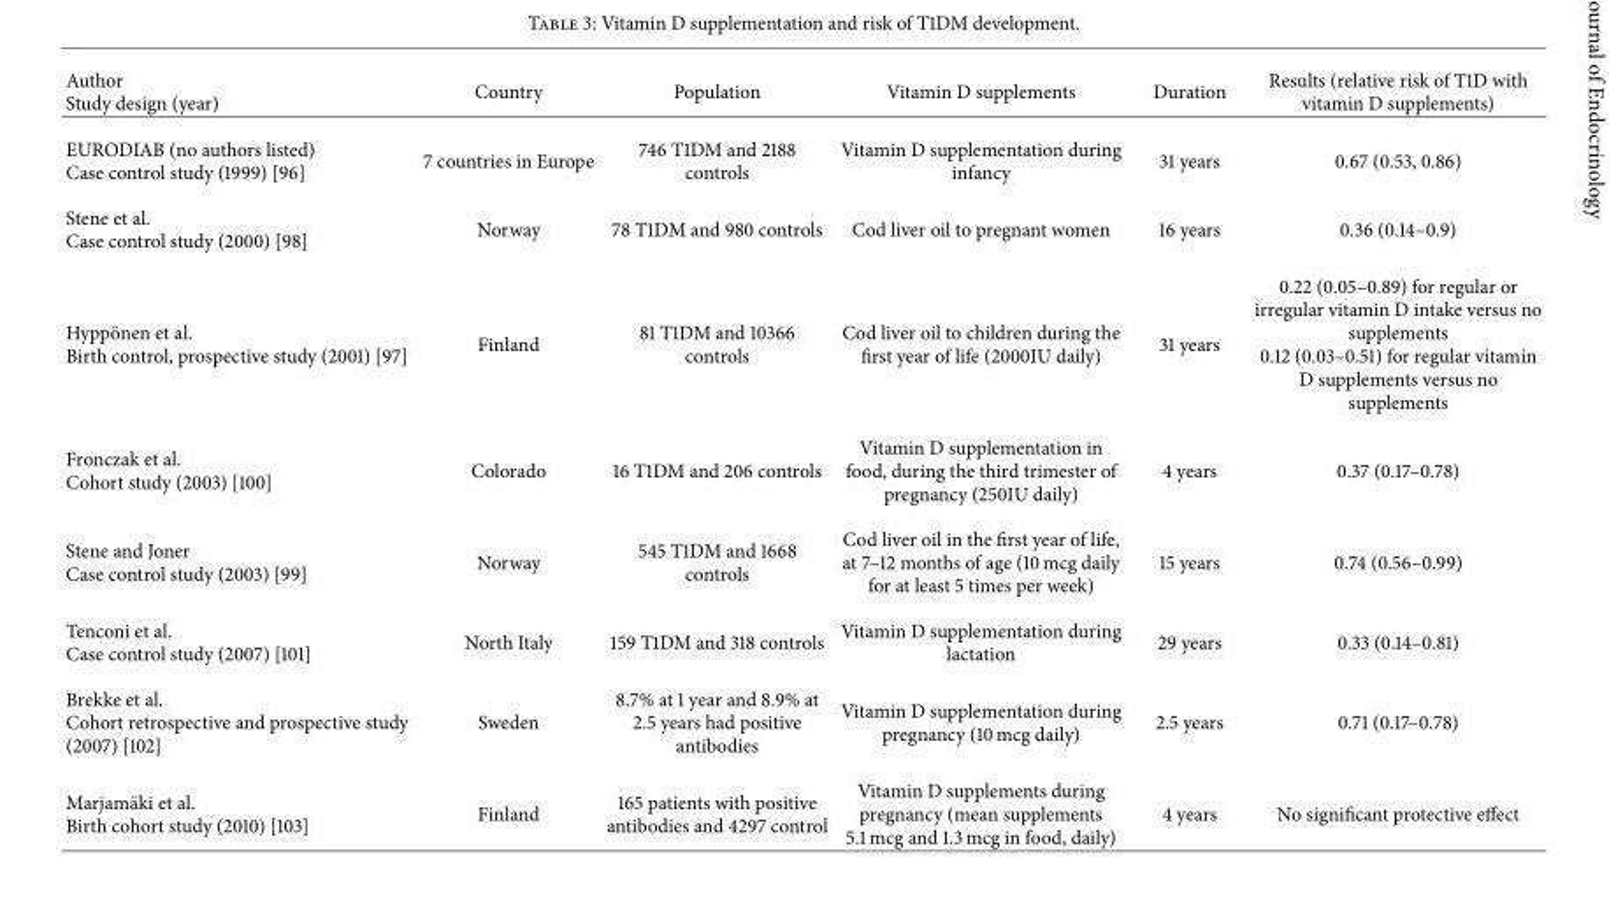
<table><thead><tr><td>Author Study design (year)</td><td>Country</td><td>Population</td><td>Vitamin D supplements</td><td>Duration</td><td>Results (relative risk of T1D with vitamin D supplements)</td></tr></thead><tbody><tr><td>EURODIAB (no authors listed) Case control study (1999) [96]</td><td>7 countries in Europe</td><td>746 T1DM and 2188 controls</td><td>Vitamin D supplementation during infancy</td><td>31 years</td><td>0.67 (0.53, 0.86)</td></tr><tr><td>Stene et al. Case control study (2000) [98]</td><td>Norway</td><td>78 T1DM and 980 controls</td><td>Cod liver oil to pregnant women</td><td>16 years</td><td>0.36 (0.14–0.9)</td></tr><tr><td>Hypp¨onen et al. Birth control, prospective study (2001) [97]</td><td>Finland</td><td>81 T1DM and 10366 controls</td><td>Cod liver oil to children during the first year of life (2000IU daily)</td><td>31 years</td><td>0.22 (0.05–0.89) for regular or irregular vitamin D intake versus no supplements 0.12 (0.03–0.51) for regular vitamin D supplements versus no supplements</td></tr><tr><td>Fronczak et al. Cohort study (2003) [100]</td><td>Colorado</td><td>16 T1DM and 206 controls</td><td>Vitamin D supplementation in food, during the third trimester of pregnancy (250IU daily)</td><td>4 years</td><td>0.37 (0.17–0.78)</td></tr><tr><td>Stene and Joner Case control study (2003) [99]</td><td>Norway</td><td>545 T1DM and 1668 controls</td><td>Cod liver oil in the first year of life, at 7–12 months of age (10 mcg daily for at least 5 times per week)</td><td>15 years</td><td>0.74 (0.56–0.99)</td></tr><tr><td>Tenconi et al. Case control study (2007) [101]</td><td>North Italy</td><td>159 T1DM and 318 controls</td><td>Vitamin D supplementation during lactation</td><td>29 years</td><td>0.33 (0.14–0.81)</td></tr><tr><td>Brekke et al. Cohort retrospective and prospective study (2007) [102]</td><td>Sweden</td><td>8.7% at 1 year and 8.9% at 2.5 years had positive antibodies</td><td>Vitamin D supplementation during pregnancy (10 mcg daily)</td><td>2.5 years</td><td>0.71 (0.17–0.78)</td></tr><tr><td>Marjam¨aki et al. Birth cohort study (2010) [103]</td><td>Finland</td><td>165 patients with positive antibodies and 4297 control</td><td>Vitamin D supplements during pregnancy (mean supplements 5.1 mcg and 1.3 mcg in food, daily)</td><td>4 years</td><td>No significant protective effect</td></tr></tbody></table>